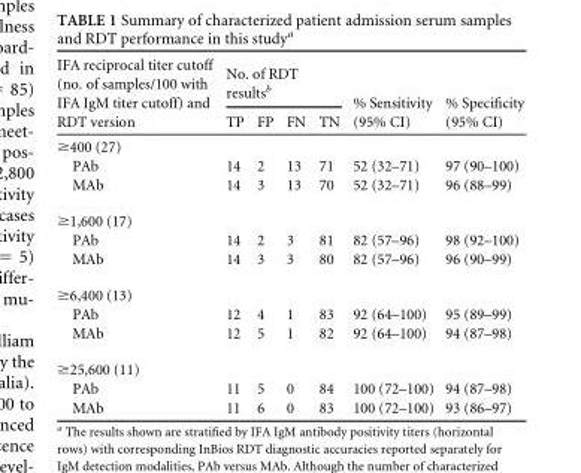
<table><thead><tr><td rowspan="2">IFA reciprocal titer cutoff (no. of samples/100 with IFA IgM titer cutoff) and RDT version</td><td colspan="4">No. of RDT results<sup>b</sup></td><td rowspan="2">% Sensitivity (95% CI)</td><td rowspan="2">% Specificity (95% CI)</td></tr><tr><td>TP</td><td>FP</td><td>FN</td><td>TN</td></tr></thead><tbody><tr><td colspan="7">≥400 (27)</td></tr><tr><td>PAb</td><td>14</td><td>2</td><td>13</td><td>71</td><td>52 (32–71)</td><td>97 (90–100)</td></tr><tr><td>MAb</td><td>14</td><td>3</td><td>13</td><td>70</td><td>52 (32–71)</td><td>96 (88–99)</td></tr><tr><td colspan="7">≥1,600 (17)</td></tr><tr><td>PAb</td><td>14</td><td>2</td><td>3</td><td>81</td><td>82 (57–96)</td><td>98 (92–100)</td></tr><tr><td>MAb</td><td>14</td><td>3</td><td>3</td><td>80</td><td>82 (57–96)</td><td>96 (90–99)</td></tr><tr><td colspan="7">≥6,400 (13)</td></tr><tr><td>PAb</td><td>12</td><td>4</td><td>1</td><td>83</td><td>92 (64–100)</td><td>95 (89–99)</td></tr><tr><td>MAb</td><td>12</td><td>5</td><td>1</td><td>82</td><td>92 (64–100)</td><td>94 (87–98)</td></tr><tr><td colspan="7">≥25,600 (11)</td></tr><tr><td>PAb</td><td>11</td><td>5</td><td>0</td><td>84</td><td>100 (72–100)</td><td>94 (87–98)</td></tr><tr><td>MAb</td><td>11</td><td>6</td><td>0</td><td>83</td><td>100 (72–100)</td><td>93 (86–97)</td></tr></tbody></table>